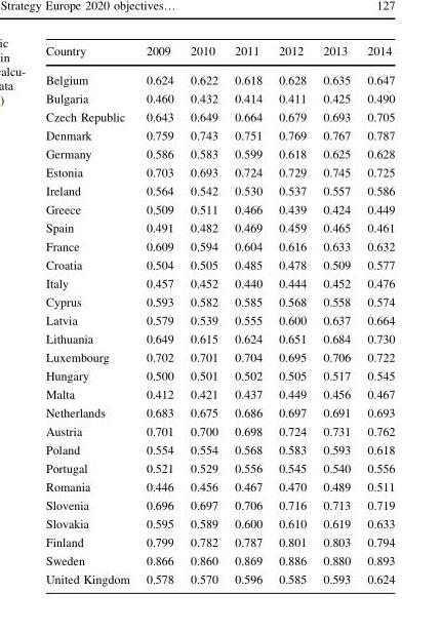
<table><thead><tr><td>Country</td><td>2009</td><td>2010</td><td>2011</td><td>2012</td><td>2013</td><td>2014</td></tr></thead><tbody><tr><td>Belgium</td><td>0.624</td><td>0.622</td><td>0.618</td><td>0.628</td><td>0.635</td><td>0.647</td></tr><tr><td>Bulgaria</td><td>0.460</td><td>0.432</td><td>0.414</td><td>0.411</td><td>0.425</td><td>0.490</td></tr><tr><td>Czech Republic</td><td>0.643</td><td>0.649</td><td>0.664</td><td>0.679</td><td>0.693</td><td>0.705</td></tr><tr><td>Denmark</td><td>0.759</td><td>0.743</td><td>0.751</td><td>0.769</td><td>0.767</td><td>0.787</td></tr><tr><td>Germany</td><td>0.586</td><td>0.583</td><td>0.599</td><td>0.618</td><td>0.625</td><td>0.628</td></tr><tr><td>Estonia</td><td>0.703</td><td>0.693</td><td>0.724</td><td>0.729</td><td>0.745</td><td>0.725</td></tr><tr><td>Ireland</td><td>0.564</td><td>0.542</td><td>0.530</td><td>0.537</td><td>0.557</td><td>0.586</td></tr><tr><td>Greece</td><td>0.509</td><td>0.511</td><td>0.466</td><td>0.439</td><td>0.424</td><td>0.449</td></tr><tr><td>Spain</td><td>0.491</td><td>0.482</td><td>0.469</td><td>0.459</td><td>0.465</td><td>0.461</td></tr><tr><td>France</td><td>0.609</td><td>0.594</td><td>0.604</td><td>0.616</td><td>0.633</td><td>0.632</td></tr><tr><td>Croatia</td><td>0.504</td><td>0.505</td><td>0.485</td><td>0.478</td><td>0.509</td><td>0.577</td></tr><tr><td>Italy</td><td>0.457</td><td>0.452</td><td>0.440</td><td>0.444</td><td>0.452</td><td>0.476</td></tr><tr><td>Cyprus</td><td>0.593</td><td>0.582</td><td>0.585</td><td>0.568</td><td>0.558</td><td>0.574</td></tr><tr><td>Latvia</td><td>0.579</td><td>0.539</td><td>0.555</td><td>0.600</td><td>0.637</td><td>0.664</td></tr><tr><td>Lithuania</td><td>0.649</td><td>0.615</td><td>0.624</td><td>0.651</td><td>0.684</td><td>0.730</td></tr><tr><td>Luxembourg</td><td>0.702</td><td>0.701</td><td>0.704</td><td>0.695</td><td>0.706</td><td>0.722</td></tr><tr><td>Hungary</td><td>0.500</td><td>0.501</td><td>0.502</td><td>0.505</td><td>0.517</td><td>0.545</td></tr><tr><td>Malta</td><td>0.412</td><td>0.421</td><td>0.437</td><td>0.449</td><td>0.456</td><td>0.467</td></tr><tr><td>Netherlands</td><td>0.683</td><td>0.675</td><td>0.686</td><td>0.697</td><td>0.691</td><td>0.693</td></tr><tr><td>Austria</td><td>0.701</td><td>0.700</td><td>0.698</td><td>0.724</td><td>0.731</td><td>0.762</td></tr><tr><td>Poland</td><td>0.554</td><td>0.554</td><td>0.568</td><td>0.583</td><td>0.593</td><td>0.618</td></tr><tr><td>Portugal</td><td>0.521</td><td>0.529</td><td>0.556</td><td>0.545</td><td>0.540</td><td>0.556</td></tr><tr><td>Romania</td><td>0.446</td><td>0.456</td><td>0.467</td><td>0.470</td><td>0.489</td><td>0.511</td></tr><tr><td>Slovenia</td><td>0.696</td><td>0.697</td><td>0.706</td><td>0.716</td><td>0.713</td><td>0.719</td></tr><tr><td>Slovakia</td><td>0.595</td><td>0.589</td><td>0.600</td><td>0.610</td><td>0.619</td><td>0.633</td></tr><tr><td>Finland</td><td>0.799</td><td>0.782</td><td>0.787</td><td>0.801</td><td>0.803</td><td>0.794</td></tr><tr><td>Sweden</td><td>0.866</td><td>0.860</td><td>0.869</td><td>0.886</td><td>0.880</td><td>0.893</td></tr><tr><td>United Kingdom</td><td>0.578</td><td>0.570</td><td>0.596</td><td>0.585</td><td>0.593</td><td>0.624</td></tr></tbody></table>